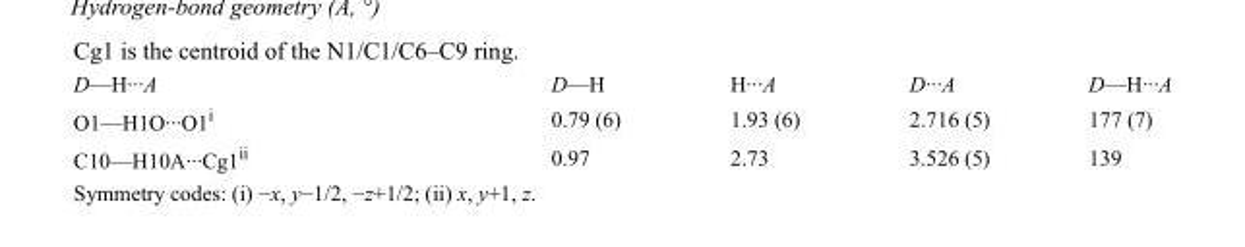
<table><tbody><tr><td>D—H···A</td><td>D—H</td><td>H···A</td><td>D···A</td><td>D—H···A</td></tr><tr><td>O1—H1O···O1<sup>i</sup></td><td>0.79 (6)</td><td>1.93 (6)</td><td>2.716 (5)</td><td>177 (7)</td></tr><tr><td>C10—H10A···Cg1<sup>ii</sup></td><td>0.97</td><td>2.73</td><td>3.526 (5)</td><td>139</td></tr></tbody></table>